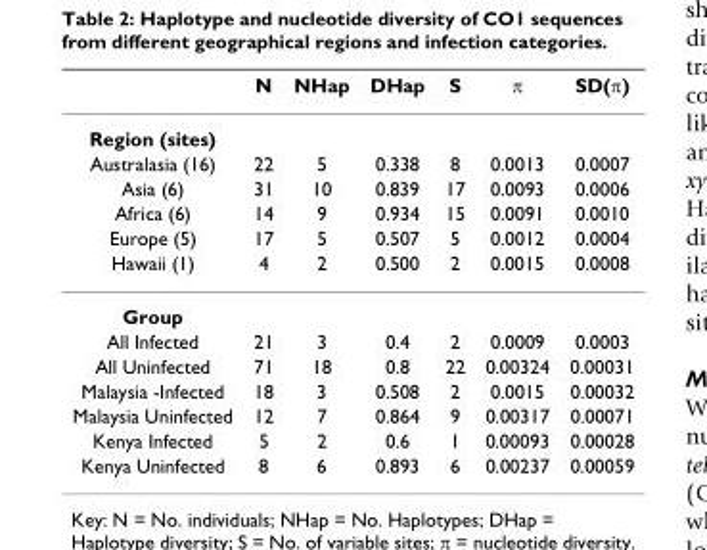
<table><thead><tr><td></td><td>N</td><td>NHap</td><td>DHap</td><td>S</td><td>π</td><td>SD(π)</td></tr></thead><tbody><tr><td colspan="7">Region (sites)</td></tr><tr><td>Australasia (16)</td><td>22</td><td>5</td><td>0.338</td><td>8</td><td>0.0013</td><td>0.0007</td></tr><tr><td>Asia (6)</td><td>31</td><td>10</td><td>0.839</td><td>17</td><td>0.0093</td><td>0.0006</td></tr><tr><td>Africa (6)</td><td>14</td><td>9</td><td>0.934</td><td>15</td><td>0.0091</td><td>0.0010</td></tr><tr><td>Europe (5)</td><td>17</td><td>5</td><td>0.507</td><td>5</td><td>0.0012</td><td>0.0004</td></tr><tr><td>Hawaii (1)</td><td>4</td><td>2</td><td>0.500</td><td>2</td><td>0.0015</td><td>0.0008</td></tr><tr><td colspan="7">Group</td></tr><tr><td>All Infected</td><td>21</td><td>3</td><td>0.4</td><td>2</td><td>0.0009</td><td>0.0003</td></tr><tr><td>All Uninfected</td><td>71</td><td>18</td><td>0.8</td><td>22</td><td>0.00324</td><td>0.00031</td></tr><tr><td>Malaysia -Infected</td><td>18</td><td>3</td><td>0.508</td><td>2</td><td>0.0015</td><td>0.00032</td></tr><tr><td>Malaysia Uninfected</td><td>12</td><td>7</td><td>0.864</td><td>9</td><td>0.00317</td><td>0.00071</td></tr><tr><td>Kenya Infected</td><td>5</td><td>2</td><td>0.6</td><td>1</td><td>0.00093</td><td>0.00028</td></tr><tr><td>Kenya Uninfected</td><td>8</td><td>6</td><td>0.893</td><td>6</td><td>0.00237</td><td>0.00059</td></tr></tbody></table>